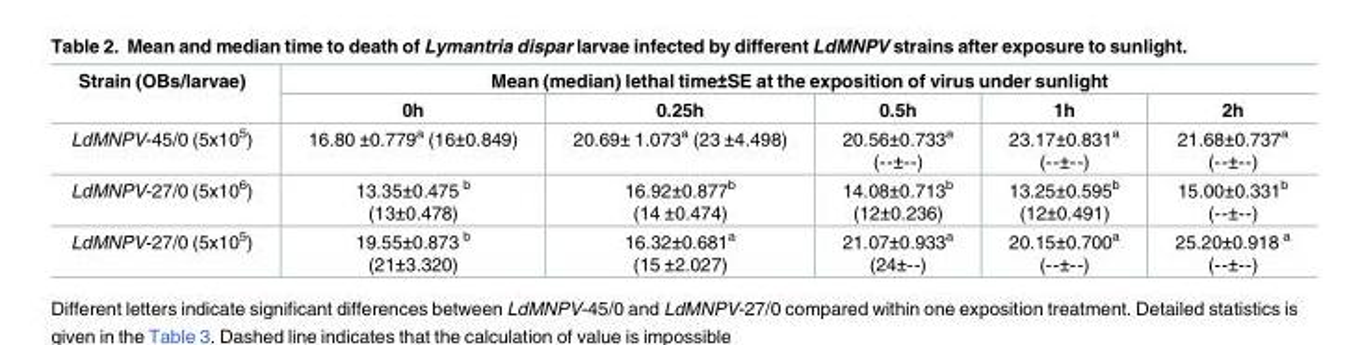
<table><thead><tr><td rowspan="2">Strain (OBs/larvae)</td><td colspan="5">Mean (median) lethal time±SE at the exposition of virus under sunlight</td></tr><tr><td>0h</td><td>0.25h</td><td>0.5h</td><td>1h</td><td>2h</td></tr></thead><tbody><tr><td>LdMNPV-45/0 (5x10<sup>5</sup>)</td><td>16.80 ±0.779<sup>a</sup> (16±0.849)</td><td>20.69± 1.073<sup>a</sup> (23 ±4.498)</td><td>20.56±0.733<sup>a</sup> (--±--)</td><td>23.17±0.831<sup>a</sup> (--±--)</td><td>21.68±0.737<sup>a</sup> (--±--)</td></tr><tr><td>LdMNPV-27/0 (5x10<sup>6</sup>)</td><td>13.35±0.475 <sup>b</sup> (13±0.478)</td><td>16.92±0.877<sup>b</sup> (14 ±0.474)</td><td>14.08±0.713<sup>b</sup> (12±0.236)</td><td>13.25±0.595<sup>b</sup> (12±0.491)</td><td>15.00±0.331<sup>b</sup> (--±--)</td></tr><tr><td>LdMNPV-27/0 (5x10<sup>5</sup>)</td><td>19.55±0.873 <sup>b</sup> (21±3.320)</td><td>16.32±0.681<sup>a</sup> (15 ±2.027)</td><td>21.07±0.933<sup>a</sup> (24±--)</td><td>20.15±0.700<sup>a</sup> (--±--)</td><td>25.20±0.918 <sup>a</sup> (--±--)</td></tr></tbody></table>